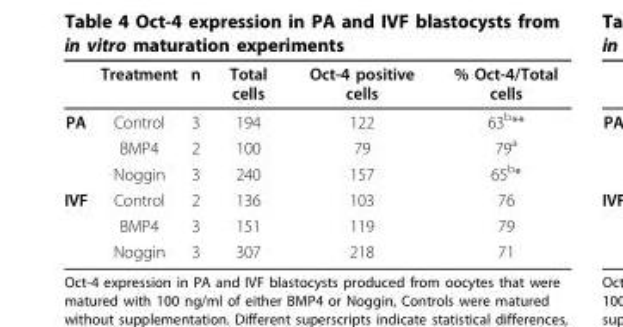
<table><thead><tr><td></td><td>Treatment</td><td>n</td><td>Total cells</td><td>Oct-4 positive cells</td><td>% Oct-4/Total cells</td></tr></thead><tbody><tr><td rowspan="3">PA</td><td>Control</td><td>3</td><td>194</td><td>122</td><td>63<sup>b</sup>**</td></tr><tr><td>BMP4</td><td>2</td><td>100</td><td>79</td><td>79<sup>a</sup></td></tr><tr><td>Noggin</td><td>3</td><td>240</td><td>157</td><td>65<sup>b</sup>*</td></tr><tr><td rowspan="3">IVF</td><td>Control</td><td>2</td><td>136</td><td>103</td><td>76</td></tr><tr><td>BMP4</td><td>3</td><td>151</td><td>119</td><td>79</td></tr><tr><td>Noggin</td><td>3</td><td>307</td><td>218</td><td>71</td></tr></tbody></table>